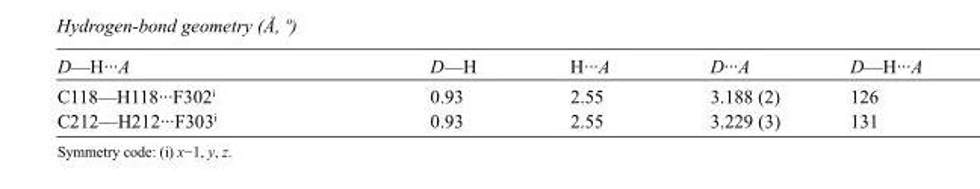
<table><tbody><tr><td>D—H···A</td><td>D—H</td><td>H···A</td><td>D···A</td><td>D—H···A</td></tr><tr><td>C118—H118···F302<sup>i</sup></td><td>0.93</td><td>2.55</td><td>3.188 (2)</td><td>126</td></tr><tr><td>C212—H212···F303<sup>i</sup></td><td>0.93</td><td>2.55</td><td>3.229 (3)</td><td>131</td></tr></tbody></table>